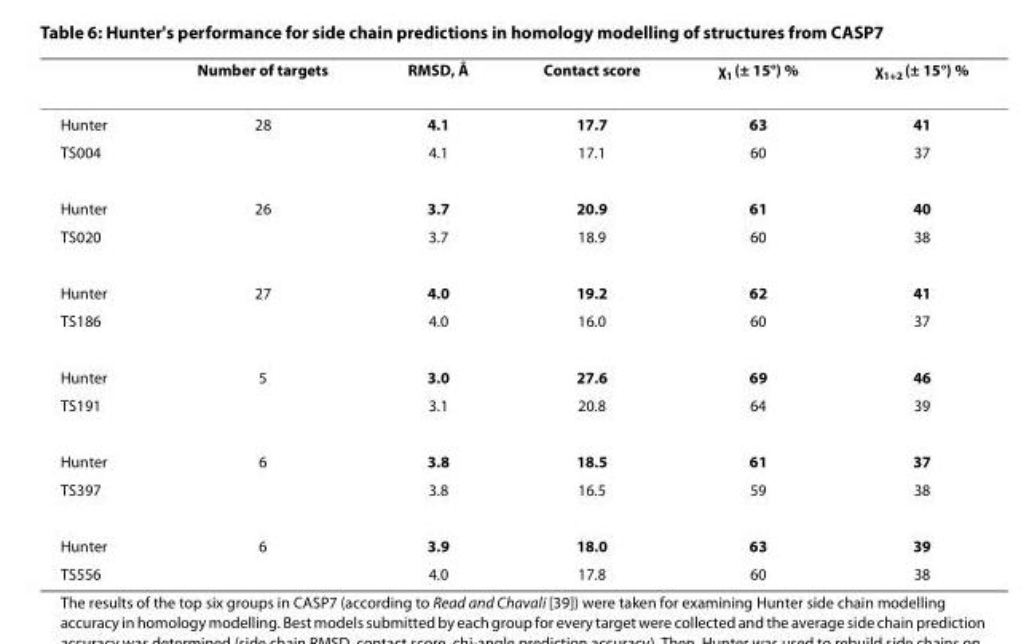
<table><thead><tr><td></td><td>Number of targets</td><td>RMSD, Å</td><td>Contact score</td><td>χ<sub>1</sub> (± 15°) %</td><td>χ<sub>1+2</sub> (± 15°) %</td></tr></thead><tbody><tr><td>Hunter</td><td>28</td><td>4.1</td><td>17.7</td><td>63</td><td>41</td></tr><tr><td>TS004</td><td></td><td>4.1</td><td>17.1</td><td>60</td><td>37</td></tr><tr><td>Hunter</td><td>26</td><td>3.7</td><td>20.9</td><td>61</td><td>40</td></tr><tr><td>TS020</td><td></td><td>3.7</td><td>18.9</td><td>60</td><td>38</td></tr><tr><td>Hunter</td><td>27</td><td>4.0</td><td>19.2</td><td>62</td><td>41</td></tr><tr><td>TS186</td><td></td><td>4.0</td><td>16.0</td><td>60</td><td>37</td></tr><tr><td>Hunter</td><td>5</td><td>3.0</td><td>27.6</td><td>69</td><td>46</td></tr><tr><td>TS191</td><td></td><td>3.1</td><td>20.8</td><td>64</td><td>39</td></tr><tr><td>Hunter</td><td>6</td><td>3.8</td><td>18.5</td><td>61</td><td>37</td></tr><tr><td>TS397</td><td></td><td>3.8</td><td>16.5</td><td>59</td><td>38</td></tr><tr><td>Hunter</td><td>6</td><td>3.9</td><td>18.0</td><td>63</td><td>39</td></tr><tr><td>TS556</td><td></td><td>4.0</td><td>17.8</td><td>60</td><td>38</td></tr></tbody></table>